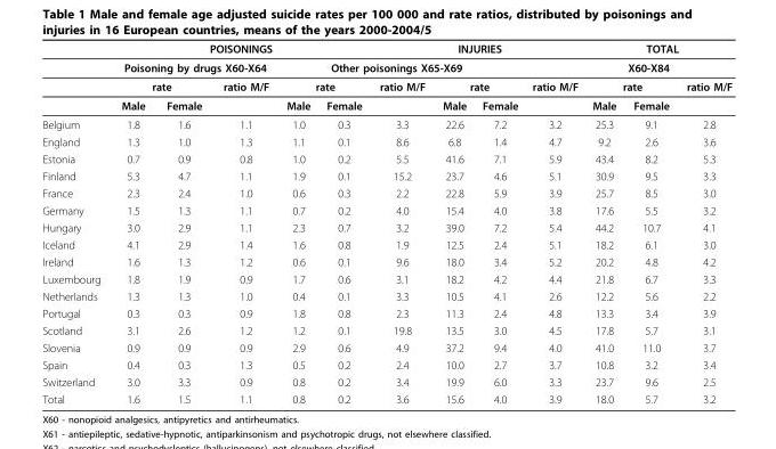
<table><thead><tr><td rowspan="4"></td><td colspan="5">POISONINGS</td><td></td><td colspan="2">INJURIES</td><td rowspan="4">ratio M/F</td><td colspan="3">TOTAL</td></tr><tr><td colspan="3">Poisoning by drugs X60-X64</td><td></td><td colspan="3">Other poisonings X65-X69</td><td></td><td></td><td>X60-X84</td><td rowspan="3">ratio M/F</td></tr><tr><td colspan="2">rate</td><td rowspan="2">ratio M/F</td><td colspan="2">rate</td><td rowspan="2">ratio M/F</td><td colspan="2">rate</td><td colspan="2">rate</td></tr><tr><td>Male</td><td>Female</td><td>Male</td><td>Female</td><td>Male</td><td>Female</td><td>Male</td><td>Female</td></tr></thead><tbody><tr><td>Belgium</td><td>1.8</td><td>1.6</td><td>1.1</td><td>1.0</td><td>0.3</td><td>3.3</td><td>22.6</td><td>7.2</td><td>3.2</td><td>25.3</td><td>9.1</td><td>2.8</td></tr><tr><td>England</td><td>1.3</td><td>1.0</td><td>1.3</td><td>1.1</td><td>0.1</td><td>8.6</td><td>6.8</td><td>1.4</td><td>4.7</td><td>9.2</td><td>2.6</td><td>3.6</td></tr><tr><td>Estonia</td><td>0.7</td><td>0.9</td><td>0.8</td><td>1.0</td><td>0.2</td><td>5.5</td><td>41.6</td><td>7.1</td><td>5.9</td><td>43.4</td><td>8.2</td><td>5.3</td></tr><tr><td>Finland</td><td>5.3</td><td>4.7</td><td>1.1</td><td>1.9</td><td>0.1</td><td>15.2</td><td>23.7</td><td>4.6</td><td>5.1</td><td>30.9</td><td>9.5</td><td>3.3</td></tr><tr><td>France</td><td>2.3</td><td>2.4</td><td>1.0</td><td>0.6</td><td>0.3</td><td>2.2</td><td>22.8</td><td>5.9</td><td>3.9</td><td>25.7</td><td>8.5</td><td>3.0</td></tr><tr><td>Germany</td><td>1.5</td><td>1.3</td><td>1.1</td><td>0.7</td><td>0.2</td><td>4.0</td><td>15.4</td><td>4.0</td><td>3.8</td><td>17.6</td><td>5.5</td><td>3.2</td></tr><tr><td>Hungary</td><td>3.0</td><td>2.9</td><td>1.1</td><td>2.3</td><td>0.7</td><td>3.2</td><td>39.0</td><td>7.2</td><td>5.4</td><td>44.2</td><td>10.7</td><td>4.1</td></tr><tr><td>Iceland</td><td>4.1</td><td>2.9</td><td>1.4</td><td>1.6</td><td>0.8</td><td>1.9</td><td>12.5</td><td>2.4</td><td>5.1</td><td>18.2</td><td>6.1</td><td>3.0</td></tr><tr><td>Ireland</td><td>1.6</td><td>1.3</td><td>1.2</td><td>0.6</td><td>0.1</td><td>9.6</td><td>18.0</td><td>3.4</td><td>5.2</td><td>20.2</td><td>4.8</td><td>4.2</td></tr><tr><td>Luxembourg</td><td>1.8</td><td>1.9</td><td>0.9</td><td>1.7</td><td>0.6</td><td>3.1</td><td>18.2</td><td>4.2</td><td>4.4</td><td>21.8</td><td>6.7</td><td>3.3</td></tr><tr><td>Netherlands</td><td>1.3</td><td>1.3</td><td>1.0</td><td>0.4</td><td>0.1</td><td>3.3</td><td>10.5</td><td>4.1</td><td>2.6</td><td>12.2</td><td>5.6</td><td>2.2</td></tr><tr><td>Portugal</td><td>0.3</td><td>0.3</td><td>0.9</td><td>1.8</td><td>0.8</td><td>2.3</td><td>11.3</td><td>2.4</td><td>4.8</td><td>13.3</td><td>3.4</td><td>3.9</td></tr><tr><td>Scotland</td><td>3.1</td><td>2.6</td><td>1.2</td><td>1.2</td><td>0.1</td><td>19.8</td><td>13.5</td><td>3.0</td><td>4.5</td><td>17.8</td><td>5.7</td><td>3.1</td></tr><tr><td>Slovenia</td><td>0.9</td><td>0.9</td><td>0.9</td><td>2.9</td><td>0.6</td><td>4.9</td><td>37.2</td><td>9.4</td><td>4.0</td><td>41.0</td><td>11.0</td><td>3.7</td></tr><tr><td>Spain</td><td>0.4</td><td>0.3</td><td>1.3</td><td>0.5</td><td>0.2</td><td>2.4</td><td>10.0</td><td>2.7</td><td>3.7</td><td>10.8</td><td>3.2</td><td>3.4</td></tr><tr><td>Switzerland</td><td>3.0</td><td>3.3</td><td>0.9</td><td>0.8</td><td>0.2</td><td>3.4</td><td>19.9</td><td>6.0</td><td>3.3</td><td>23.7</td><td>9.6</td><td>2.5</td></tr><tr><td>Total</td><td>1.6</td><td>1.5</td><td>1.1</td><td>0.8</td><td>0.2</td><td>3.6</td><td>15.6</td><td>4.0</td><td>3.9</td><td>18.0</td><td>5.7</td><td>3.2</td></tr></tbody></table>